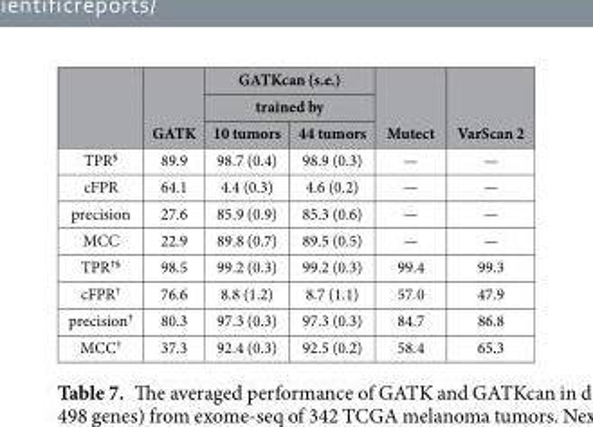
<table><thead><tr><td rowspan="3"></td><td rowspan="3">GATK</td><td rowspan="2" colspan="2">GATKcan (s.e.) trained by</td><td rowspan="3">Mutect</td><td rowspan="3">VarScan 2</td></tr><tr></tr><tr><td>10 tumors</td><td>44 tumors</td></tr></thead><tbody><tr><td>TPR<sup>§</sup></td><td>89.9</td><td>98.7 (0.4)</td><td>98.9 (0.3)</td><td>—</td><td>—</td></tr><tr><td>cFPR</td><td>64.1</td><td>4.4 (0.3)</td><td>4.6 (0.2)</td><td>—</td><td>—</td></tr><tr><td>precision</td><td>27.6</td><td>85.9 (0.9)</td><td>85.3 (0.6)</td><td>—</td><td>—</td></tr><tr><td>MCC</td><td>22.9</td><td>89.8 (0.7)</td><td>89.5 (0.5)</td><td>—</td><td>—</td></tr><tr><td>TPR<sup>†§</sup></td><td>98.5</td><td>99.2 (0.3)</td><td>99.2 (0.3)</td><td>99.4</td><td>99.3</td></tr><tr><td>cFPR<sup>†</sup></td><td>76.6</td><td>8.8 (1.2)</td><td>8.7 (1.1)</td><td>57.0</td><td>47.9</td></tr><tr><td>precision<sup>†</sup></td><td>80.3</td><td>97.3 (0.3)</td><td>97.3 (0.3)</td><td>84.7</td><td>86.8</td></tr><tr><td>MCC<sup>†</sup></td><td>37.3</td><td>92.4 (0.3)</td><td>92.5 (0.2)</td><td>58.4</td><td>65.3</td></tr></tbody></table>